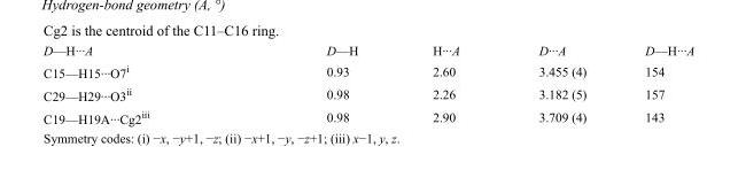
<table><tbody><tr><td>D—H···A</td><td>D—H</td><td>H···A</td><td>D···A</td><td>D—H···A</td></tr><tr><td>C15—H15···O7<sup>i</sup></td><td>0.93</td><td>2.60</td><td>3.455 (4)</td><td>154</td></tr><tr><td>C29—H29···O3<sup>ii</sup></td><td>0.98</td><td>2.26</td><td>3.182 (5)</td><td>157</td></tr><tr><td>C19—H19A···Cg2<sup>iii</sup></td><td>0.98</td><td>2.90</td><td>3.709 (4)</td><td>143</td></tr></tbody></table>